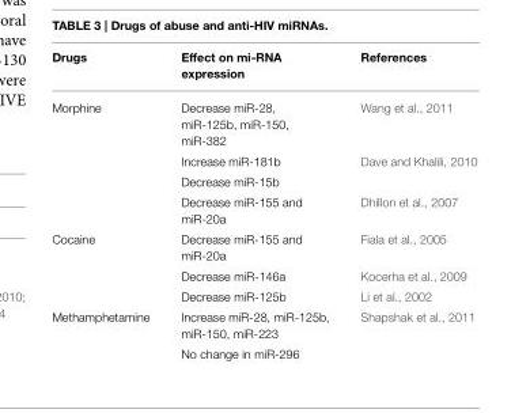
<table><thead><tr><td>Drugs</td><td>Effect on mi-RNA expression</td><td>References</td></tr></thead><tbody><tr><td rowspan="4">Morphine</td><td>Decrease miR-28, miR-125b, miR-150, miR-382</td><td>Wang et al., 2011</td></tr><tr><td>Increase miR-181b</td><td>Dave and Khalili, 2010</td></tr><tr><td>Decrease miR-15b</td><td></td></tr><tr><td>Decrease miR-155 and miR-20a</td><td>Dhillon et al., 2007</td></tr><tr><td rowspan="3">Cocaine</td><td>Decrease miR-155 and miR-20a</td><td>Fiala et al., 2005</td></tr><tr><td>Decrease miR-146a</td><td>Kocerha et al., 2009</td></tr><tr><td>Decrease miR-125b</td><td>Li et al., 2002</td></tr><tr><td rowspan="2">Methamphetamine</td><td>Increase miR-28, miR-125b, miR-150, miR-223</td><td>Shapshak et al., 2011</td></tr><tr><td>No change in miR-296</td><td></td></tr></tbody></table>